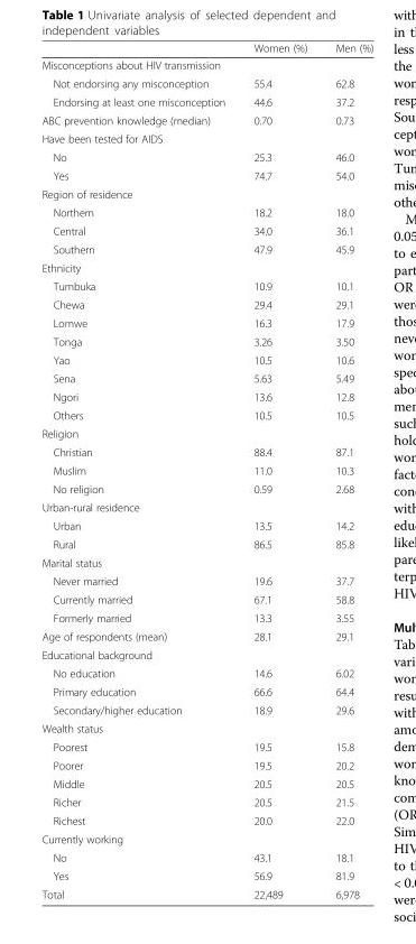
<table><thead><tr><td></td><td>Women (%)</td><td>Men (%)</td></tr></thead><tbody><tr><td colspan="3">Misconceptions about HIV transmission</td></tr><tr><td>Not endorsing any misconception</td><td>55.4</td><td>62.8</td></tr><tr><td>Endorsing at least one misconception</td><td>44.6</td><td>37.2</td></tr><tr><td>ABC prevention knowledge (median)</td><td>0.70</td><td>0.73</td></tr><tr><td colspan="3">Have been tested for AIDS</td></tr><tr><td>No</td><td>25.3</td><td>46.0</td></tr><tr><td>Yes</td><td>74.7</td><td>54.0</td></tr><tr><td colspan="3">Region of residence</td></tr><tr><td>Northern</td><td>18.2</td><td>18.0</td></tr><tr><td>Central</td><td>34.0</td><td>36.1</td></tr><tr><td>Southern</td><td>47.9</td><td>45.9</td></tr><tr><td colspan="3">Ethnicity</td></tr><tr><td>Tumbuka</td><td>10.9</td><td>10.1</td></tr><tr><td>Chewa</td><td>29.4</td><td>29.1</td></tr><tr><td>Lomwe</td><td>16.3</td><td>17.9</td></tr><tr><td>Tonga</td><td>3.26</td><td>3.50</td></tr><tr><td>Yao</td><td>10.5</td><td>10.6</td></tr><tr><td>Sena</td><td>5.63</td><td>5.49</td></tr><tr><td>Ngori</td><td>13.6</td><td>12.8</td></tr><tr><td>Others</td><td>10.5</td><td>10.5</td></tr><tr><td colspan="3">Religion</td></tr><tr><td>Christian</td><td>88.4</td><td>87.1</td></tr><tr><td>Muslim</td><td>11.0</td><td>10.3</td></tr><tr><td>No religion</td><td>0.59</td><td>2.68</td></tr><tr><td colspan="3">Urban-rural residence</td></tr><tr><td>Urban</td><td>13.5</td><td>14.2</td></tr><tr><td>Rural</td><td>86.5</td><td>85.8</td></tr><tr><td colspan="3">Marital status</td></tr><tr><td>Never married</td><td>19.6</td><td>37.7</td></tr><tr><td>Currently married</td><td>67.1</td><td>58.8</td></tr><tr><td>Formerly married</td><td>13.3</td><td>3.55</td></tr><tr><td>Age of respondents (mean)</td><td>28.1</td><td>29.1</td></tr><tr><td colspan="3">Educational background</td></tr><tr><td>No education</td><td>14.6</td><td>6.02</td></tr><tr><td>Primary education</td><td>66.6</td><td>64.4</td></tr><tr><td>Secondary/higher education</td><td>18.9</td><td>29.6</td></tr><tr><td colspan="3">Wealth status</td></tr><tr><td>Poorest</td><td>19.5</td><td>15.8</td></tr><tr><td>Poorer</td><td>19.5</td><td>20.2</td></tr><tr><td>Middle</td><td>20.5</td><td>20.5</td></tr><tr><td>Richer</td><td>20.5</td><td>21.5</td></tr><tr><td>Richest</td><td>20.0</td><td>22.0</td></tr><tr><td colspan="3">Currently working</td></tr><tr><td>No</td><td>43.1</td><td>18.1</td></tr><tr><td>Yes</td><td>56.9</td><td>81.9</td></tr><tr><td>Total</td><td>22,489</td><td>6,978</td></tr></tbody></table>